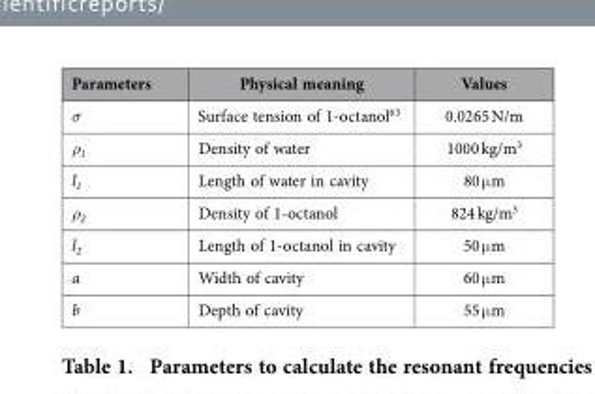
<table><thead><tr><td>Parameters</td><td>Physical meaning</td><td>Values</td></tr></thead><tbody><tr><td>σ</td><td>Surface tension of 1-octanol<sup>63</sup></td><td>0.0265 N/m</td></tr><tr><td>ρ<sub>1</sub></td><td>Density of water</td><td>1000 kg/m<sup>3</sup></td></tr><tr><td>l<sub>1</sub></td><td>Length of water in cavity</td><td>80 μ m</td></tr><tr><td>ρ<sub>2</sub></td><td>Density of 1-octanol</td><td>824 kg/m<sup>3</sup></td></tr><tr><td>l<sub>2</sub></td><td>Length of 1-octanol in cavity</td><td>50 μ m</td></tr><tr><td>a</td><td>Width of cavity</td><td>60 μ m</td></tr><tr><td>b</td><td>Depth of cavity</td><td>55 μ m</td></tr></tbody></table>